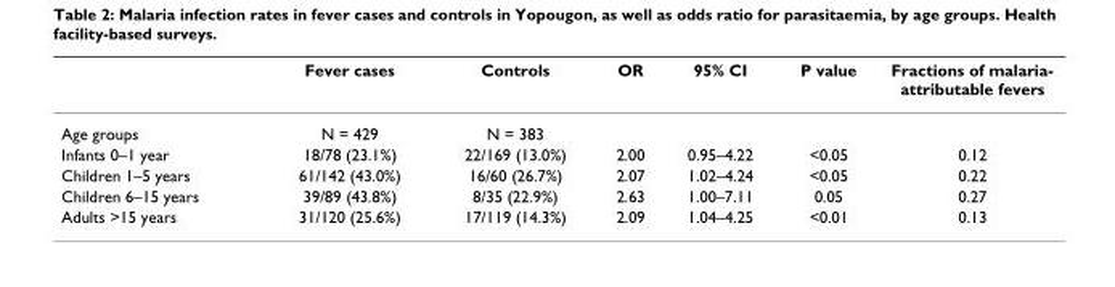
<table><thead><tr><td></td><td>Fever cases</td><td>Controls</td><td>OR</td><td>95% CI</td><td>P value</td><td>Fractions of malaria- attributable fevers</td></tr></thead><tbody><tr><td>Age groups</td><td>N = 429</td><td>N = 383</td><td></td><td></td><td></td><td></td></tr><tr><td>Infants 0–1 year</td><td>18/78 (23.1%)</td><td>22/169 (13.0%)</td><td>2.00</td><td>0.95–4.22</td><td>&lt;0.05</td><td>0.12</td></tr><tr><td>Children 1–5 years</td><td>61/142 (43.0%)</td><td>16/60 (26.7%)</td><td>2.07</td><td>1.02–4.24</td><td>&lt;0.05</td><td>0.22</td></tr><tr><td>Children 6–15 years</td><td>39/89 (43.8%)</td><td>8/35 (22.9%)</td><td>2.63</td><td>1.00–7.11</td><td>0.05</td><td>0.27</td></tr><tr><td>Adults &gt;15 years</td><td>31/120 (25.6%)</td><td>17/119 (14.3%)</td><td>2.09</td><td>1.04–4.25</td><td>&lt;0.01</td><td>0.13</td></tr></tbody></table>